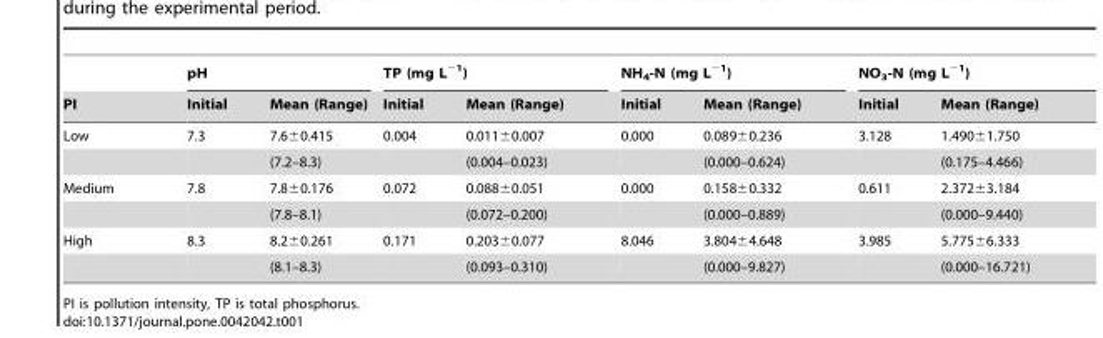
<table><thead><tr><td rowspan="2">PI</td><td colspan="2">pH</td><td colspan="2">TP (mg L<sup>−1</sup>)</td><td colspan="2">NH<sub>4</sub>-N (mg L<sup>−1</sup>)</td><td colspan="2">NO<sub>3</sub>-N (mg L<sup>−1</sup>)</td></tr><tr><td>Initial</td><td>Mean (Range)</td><td>Initial</td><td>Mean (Range)</td><td>Initial</td><td>Mean (Range)</td><td>Initial</td><td>Mean (Range)</td></tr></thead><tbody><tr><td rowspan="2">Low</td><td>7.3</td><td>7.6±0.415</td><td>0.004</td><td>0.011±0.007</td><td>0.000</td><td>0.089±0.236</td><td>3.128</td><td>1.490±1.750</td></tr><tr><td></td><td>(7.2–8.3)</td><td></td><td>(0.004–0.023)</td><td></td><td>(0.000–0.624)</td><td></td><td>(0.175–4.466)</td></tr><tr><td rowspan="2">Medium</td><td>7.8</td><td>7.8±0.176</td><td>0.072</td><td>0.088±0.051</td><td>0.000</td><td>0.158±0.332</td><td>0.611</td><td>2.372±3.184</td></tr><tr><td></td><td>(7.8–8.1)</td><td></td><td>(0.072–0.200)</td><td></td><td>(0.000–0.889)</td><td></td><td>(0.000–9.440)</td></tr><tr><td rowspan="2">High</td><td>8.3</td><td>8.2±0.261</td><td>0.171</td><td>0.203±0.077</td><td>8.046</td><td>3.804±4.648</td><td>3.985</td><td>5.775±6.333</td></tr><tr><td></td><td>(8.1–8.3)</td><td></td><td>(0.093–0.310)</td><td></td><td>(0.000–9.827)</td><td></td><td>(0.000–16.721)</td></tr></tbody></table>